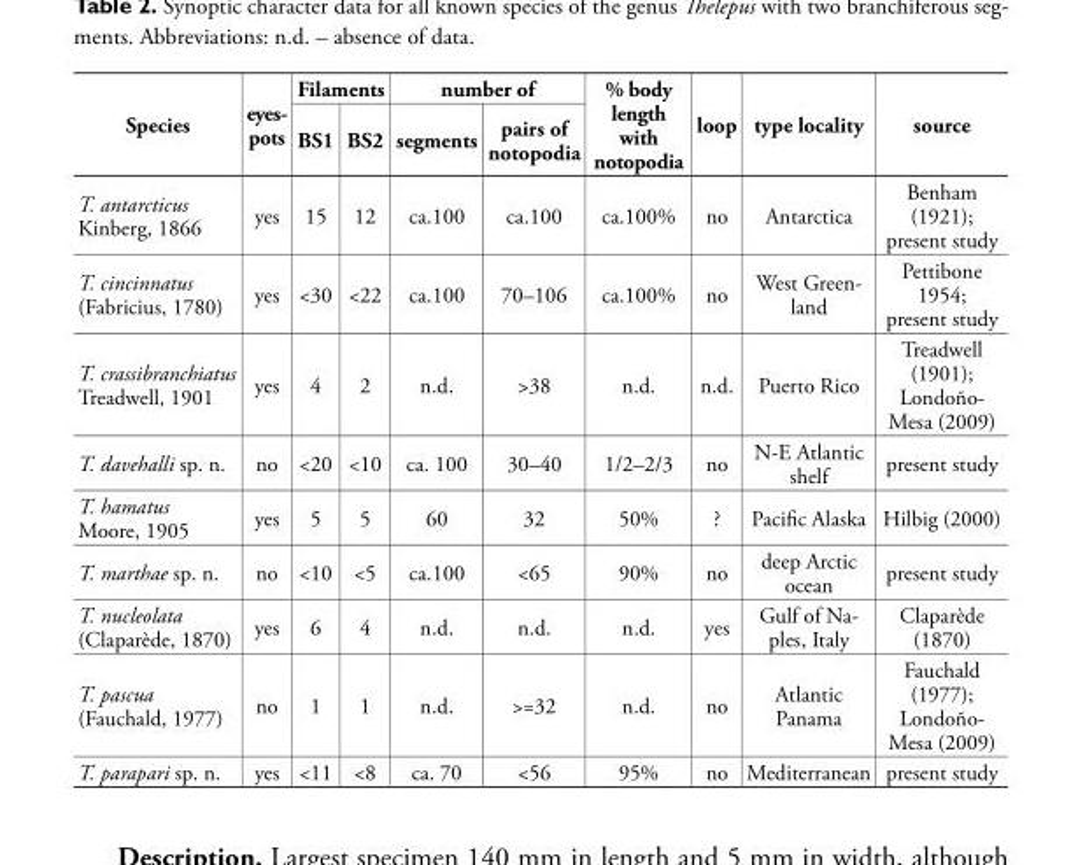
<table><thead><tr><td rowspan="2">Species</td><td rowspan="2">eyes- pots</td><td colspan="2">Filaments</td><td colspan="2">number of</td><td rowspan="2">% body length with notopodia</td><td rowspan="2">loop</td><td rowspan="2">type locality</td><td rowspan="2">source</td></tr><tr><td>BS1</td><td>BS2</td><td>segments</td><td>pairs of notopodia</td></tr></thead><tbody><tr><td>T. antarcticus Kinberg, 1866</td><td>yes</td><td>15</td><td>12</td><td>ca.100</td><td>ca.100</td><td>ca.100%</td><td>no</td><td>Antarctica</td><td>Benham (1921); present study</td></tr><tr><td>T. cincinnatus (Fabricius, 1780)</td><td>yes</td><td>&lt;30</td><td>&lt;22</td><td>ca.100</td><td>70–106</td><td>ca.100%</td><td>no</td><td>West Green- land</td><td>Pettibone 1954; present study</td></tr><tr><td>T. crassibranchiatus Treadwell, 1901</td><td>yes</td><td>4</td><td>2</td><td>n.d.</td><td>&gt;38</td><td>n.d.</td><td>n.d.</td><td>Puerto Rico</td><td>Treadwell (1901); Londoño- Mesa (2009)</td></tr><tr><td>T. davehalli sp. n.</td><td>no</td><td>&lt;20</td><td>&lt;10</td><td>ca. 100</td><td>30–40</td><td>1/2–2/3</td><td>no</td><td>N-E Atlantic shelf</td><td>present study</td></tr><tr><td>T. hamatus Moore, 1905</td><td>yes</td><td>5</td><td>5</td><td>60</td><td>32</td><td>50%</td><td>?</td><td>Pacific Alaska</td><td>Hilbig (2000)</td></tr><tr><td>T. marthae sp. n.</td><td>no</td><td>&lt;10</td><td>&lt;5</td><td>ca.100</td><td>&lt;65</td><td>90%</td><td>no</td><td>deep Arctic ocean</td><td>present study</td></tr><tr><td>T. nucleolata (Claparède, 1870)</td><td>yes</td><td>6</td><td>4</td><td>n.d.</td><td>n.d.</td><td>n.d.</td><td>yes</td><td>Gulf of Na- ples, Italy</td><td>Claparède (1870)</td></tr><tr><td>T. pascua (Fauchald, 1977)</td><td>no</td><td>1</td><td>1</td><td>n.d.</td><td>&gt;=32</td><td>n.d.</td><td>no</td><td>Atlantic Panama</td><td>Fauchald (1977); Londoño- Mesa (2009)</td></tr><tr><td>T. parapari sp. n.</td><td>yes</td><td>&lt;11</td><td>&lt;8</td><td>ca. 70</td><td>&lt;56</td><td>95%</td><td>no</td><td>Mediterranean</td><td>present study</td></tr></tbody></table>